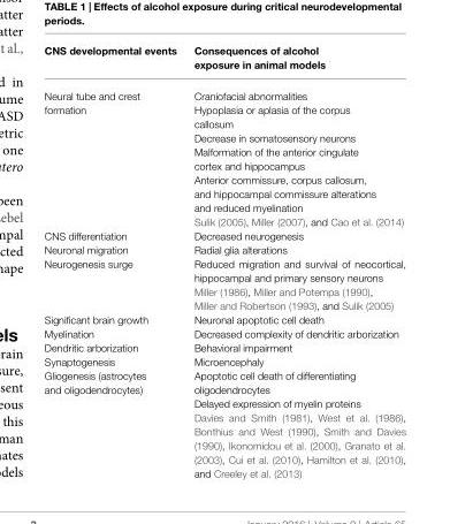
<table><thead><tr><td>CNS developmental events</td><td>Consequences of alcohol exposure in animal models</td></tr></thead><tbody><tr><td>Neural tube and crest formation</td><td>Craniofacial abnormalities Hypoplasia or aplasia of the corpus callosum Decrease in somatosensory neurons Malformation of the anterior cingulate cortex and hippocampus Anterior commissure, corpus callosum, and hippocampal commissure alterations and reduced myelination Sulik (2005), Miller (2007), and Cao et al. (2014)</td></tr><tr><td>CNS differentiation Neuronal migration Neurogenesis surge</td><td>Decreased neurogenesis Radial glia alterations Reduced migration and survival of neocortical, hippocampal and primary sensory neurons Miller (1986), Miller and Potempa (1990), Miller and Robertson (1993), and Sulik (2005)</td></tr><tr><td>Significant brain growth Myelination Dendritic arborization Synaptogenesis Gliogenesis (astrocytes and oligodendrocytes)</td><td>Neuronal apoptotic cell death Decreased complexity of dendritic arborization Behavioral impairment Microencephaly Apoptotic cell death of differentiating oligodendrocytes Delayed expression of myelin proteins Davies and Smith (1981), West et al. (1986), Bonthius and West (1990), Smith and Davies (1990), Ikonomidou et al. (2000), Granato et al. (2003), Cui et al. (2010), Hamilton et al. (2010), and Creeley et al. (2013)</td></tr></tbody></table>